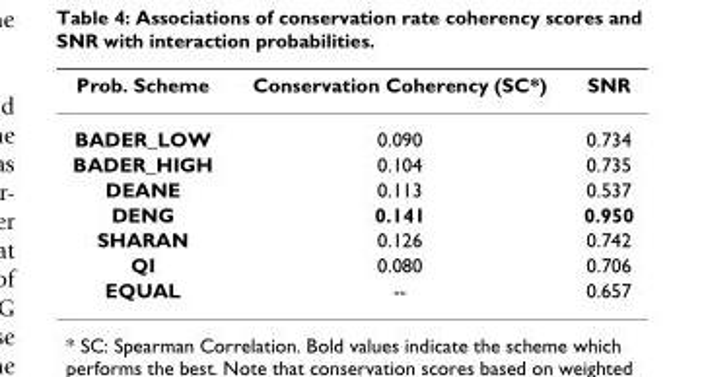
<table><thead><tr><td>Prob. Scheme</td><td>Conservation Coherency (SC*)</td><td>SNR</td></tr></thead><tbody><tr><td>BADER_LOW</td><td>0.090</td><td>0.734</td></tr><tr><td>BADER_HIGH</td><td>0.104</td><td>0.735</td></tr><tr><td>DEANE</td><td>0.113</td><td>0.537</td></tr><tr><td>DENG</td><td>0.141</td><td>0.950</td></tr><tr><td>SHARAN</td><td>0.126</td><td>0.742</td></tr><tr><td>QI</td><td>0.080</td><td>0.706</td></tr><tr><td>EQUAL</td><td>--</td><td>0.657</td></tr></tbody></table>